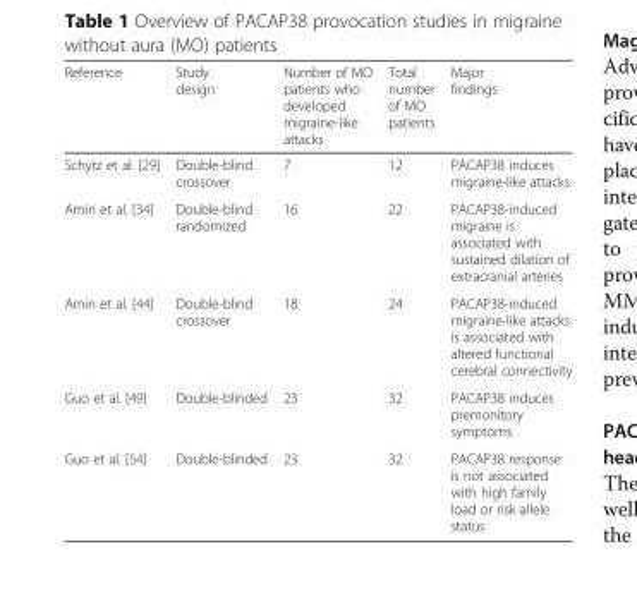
<table><thead><tr><td>Reference</td><td>Study design</td><td>Number of MO patients who developed migraine-like attacks</td><td>Total number of MO patients</td><td>Major findings</td></tr></thead><tbody><tr><td>Schytz et al. [29]</td><td>Double-blind crossover</td><td>7</td><td>12</td><td>PACAP38 induces migraine-like attacks</td></tr><tr><td>Amin et al. [34]</td><td>Double-blind randomized</td><td>16</td><td>22</td><td>PACAP38-induced migraine is associated with sustained dilation of extracranial arteries</td></tr><tr><td>Amin et al. [44]</td><td>Double-blind crossover</td><td>18</td><td>24</td><td>PACAP38-induced migraine-like attacks is associated with altered functional cerebral connectivity</td></tr><tr><td>Guo et al. [49]</td><td>Double-blinded</td><td>23</td><td>32</td><td>PACAP38 induces premonitory symptoms</td></tr><tr><td>Guo et al. [54]</td><td>Double-blinded</td><td>23</td><td>32</td><td>PACAP38 response is not associated with high family load or risk allele status</td></tr></tbody></table>